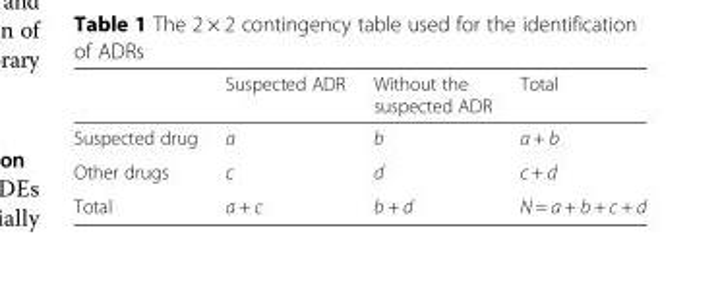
<table><thead><tr><td></td><td>Suspected ADR</td><td>Without the suspected ADR</td><td>Total</td></tr></thead><tbody><tr><td>Suspected drug</td><td>a</td><td>b</td><td>a + b</td></tr><tr><td>Other drugs</td><td>c</td><td>d</td><td>c + d</td></tr><tr><td>Total</td><td>a + c</td><td>b + d</td><td>N = a + b + c + d</td></tr></tbody></table>